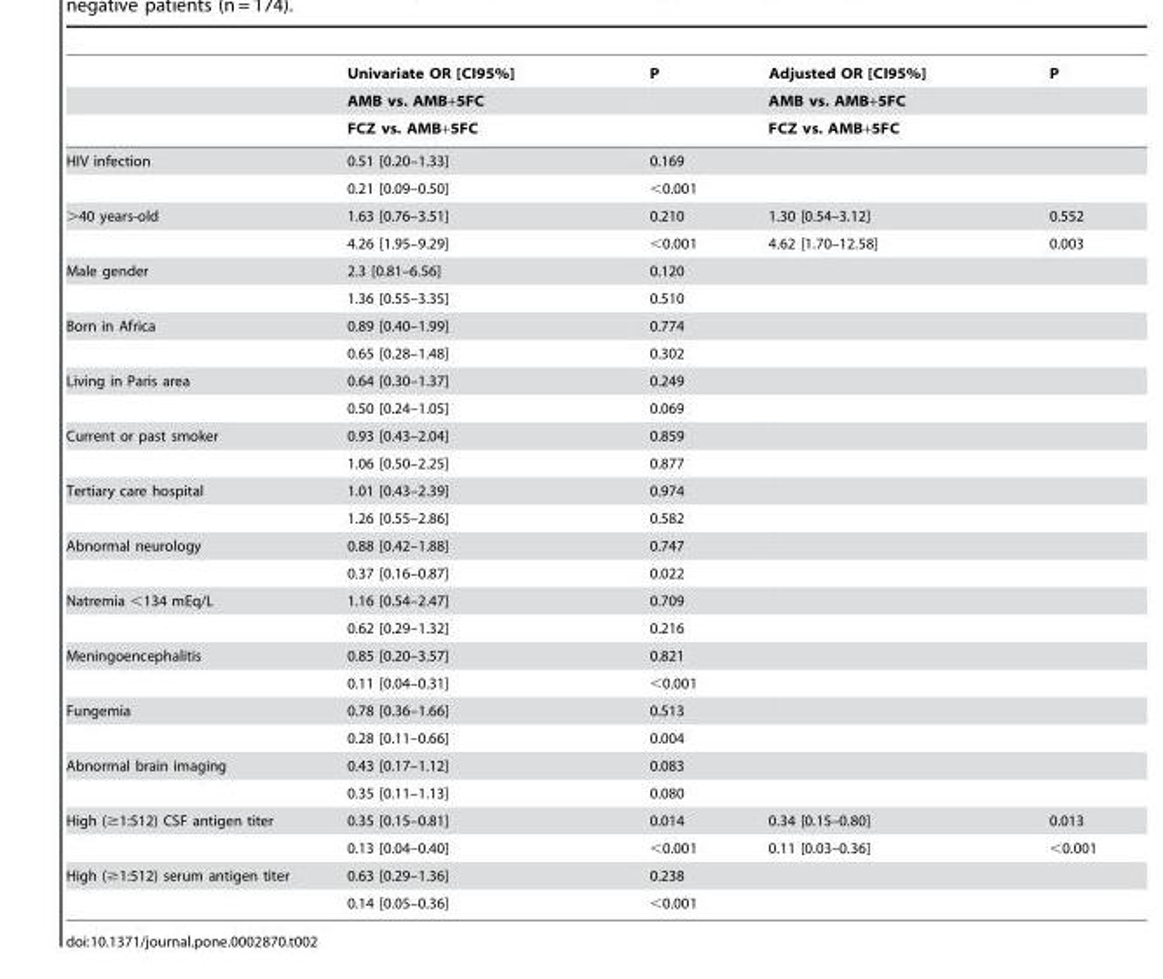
<table><thead><tr><td rowspan="3"></td><td rowspan="3">Univariate OR [CI95%] AMB vs. AMB+5FC FCZ vs. AMB+5FC</td><td rowspan="3">P</td><td rowspan="3">Adjusted OR [CI95%] AMB vs. AMB+5FC FCZ vs. AMB+5FC</td><td rowspan="3">P</td></tr><tr></tr><tr></tr></thead><tbody><tr><td rowspan="2">HIV infection</td><td>0.51 [0.20–1.33]</td><td>0.169</td><td></td><td></td></tr><tr><td>0.21 [0.09–0.50]</td><td>&lt;0.001</td><td></td><td></td></tr><tr><td rowspan="2">&gt;40 years-old</td><td>1.63 [0.76–3.51]</td><td>0.210</td><td>1.30 [0.54–3.12]</td><td>0.552</td></tr><tr><td>4.26 [1.95–9.29]</td><td>&lt;0.001</td><td>4.62 [1.70–12.58]</td><td>0.003</td></tr><tr><td rowspan="2">Male gender</td><td>2.3 [0.81–6.56]</td><td>0.120</td><td></td><td></td></tr><tr><td>1.36 [0.55–3.35]</td><td>0.510</td><td></td><td></td></tr><tr><td rowspan="2">Born in Africa</td><td>0.89 [0.40–1.99]</td><td>0.774</td><td></td><td></td></tr><tr><td>0.65 [0.28–1.48]</td><td>0.302</td><td></td><td></td></tr><tr><td rowspan="2">Living in Paris area</td><td>0.64 [0.30–1.37]</td><td>0.249</td><td></td><td></td></tr><tr><td>0.50 [0.24–1.05]</td><td>0.069</td><td></td><td></td></tr><tr><td rowspan="2">Current or past smoker</td><td>0.93 [0.43–2.04]</td><td>0.859</td><td></td><td></td></tr><tr><td>1.06 [0.50–2.25]</td><td>0.877</td><td></td><td></td></tr><tr><td rowspan="2">Tertiary care hospital</td><td>1.01 [0.43–2.39]</td><td>0.974</td><td></td><td></td></tr><tr><td>1.26 [0.55–2.86]</td><td>0.582</td><td></td><td></td></tr><tr><td rowspan="2">Abnormal neurology</td><td>0.88 [0.42–1.88]</td><td>0.747</td><td></td><td></td></tr><tr><td>0.37 [0.16–0.87]</td><td>0.022</td><td></td><td></td></tr><tr><td rowspan="2">Natremia &lt;134 mEq/L</td><td>1.16 [0.54–2.47]</td><td>0.709</td><td></td><td></td></tr><tr><td>0.62 [0.29–1.32]</td><td>0.216</td><td></td><td></td></tr><tr><td rowspan="2">Meningoencephalitis</td><td>0.85 [0.20–3.57]</td><td>0.821</td><td></td><td></td></tr><tr><td>0.11 [0.04–0.31]</td><td>&lt;0.001</td><td></td><td></td></tr><tr><td rowspan="2">Fungemia</td><td>0.78 [0.36–1.66]</td><td>0.513</td><td></td><td></td></tr><tr><td>0.28 [0.11–0.66]</td><td>0.004</td><td></td><td></td></tr><tr><td rowspan="2">Abnormal brain imaging</td><td>0.43 [0.17–1.12]</td><td>0.083</td><td></td><td></td></tr><tr><td>0.35 [0.11–1.13]</td><td>0.080</td><td></td><td></td></tr><tr><td rowspan="2">High (≥1:512) CSF antigen titer</td><td>0.35 [0.15–0.81]</td><td>0.014</td><td>0.34 [0.15–0.80]</td><td>0.013</td></tr><tr><td>0.13 [0.04–0.40]</td><td>&lt;0.001</td><td>0.11 [0.03–0.36]</td><td>&lt;0.001</td></tr><tr><td rowspan="2">High (≥1:512) serum antigen titer</td><td>0.63 [0.29–1.36]</td><td>0.238</td><td></td><td></td></tr><tr><td>0.14 [0.05–0.36]</td><td>&lt;0.001</td><td></td><td></td></tr></tbody></table>